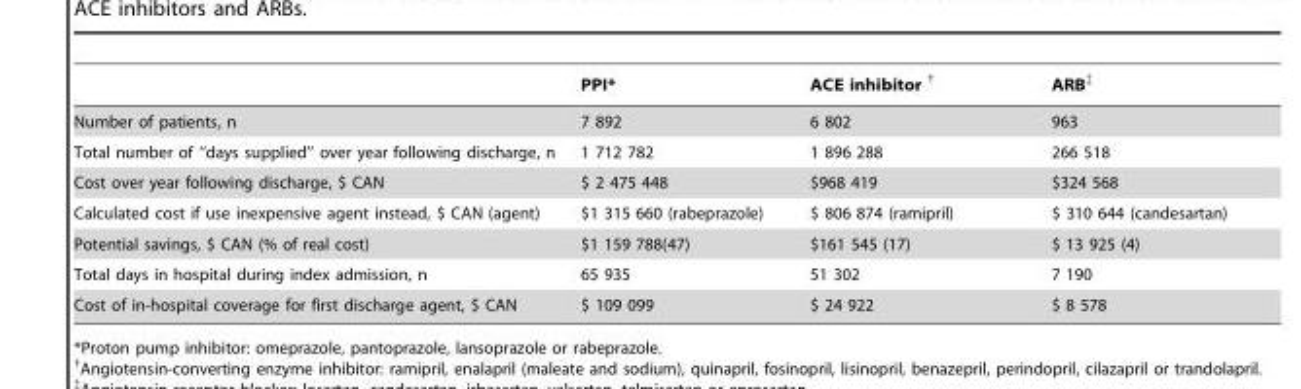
<table><thead><tr><td></td><td>PPI*</td><td>ACE inhibitor †</td><td>ARB‡</td></tr></thead><tbody><tr><td>Number of patients, n</td><td>7 892</td><td>6 802</td><td>963</td></tr><tr><td>Total number of ‘‘days supplied’’ over year following discharge, n</td><td>1 712 782</td><td>1 896 288</td><td>266 518</td></tr><tr><td>Cost over year following discharge, $ CAN</td><td>$ 2 475 448</td><td>$968 419</td><td>$324 568</td></tr><tr><td>Calculated cost if use inexpensive agent instead, $ CAN (agent)</td><td>$1 315 660 (rabeprazole)</td><td>$ 806 874 (ramipril)</td><td>$ 310 644 (candesartan)</td></tr><tr><td>Potential savings, $ CAN (% of real cost)</td><td>$1 159 788(47)</td><td>$161 545 (17)</td><td>$ 13 925 (4)</td></tr><tr><td>Total days in hospital during index admission, n</td><td>65 935</td><td>51 302</td><td>7 190</td></tr><tr><td>Cost of in-hospital coverage for first discharge agent, $ CAN</td><td>$ 109 099</td><td>$ 24 922</td><td>$ 8 578</td></tr></tbody></table>